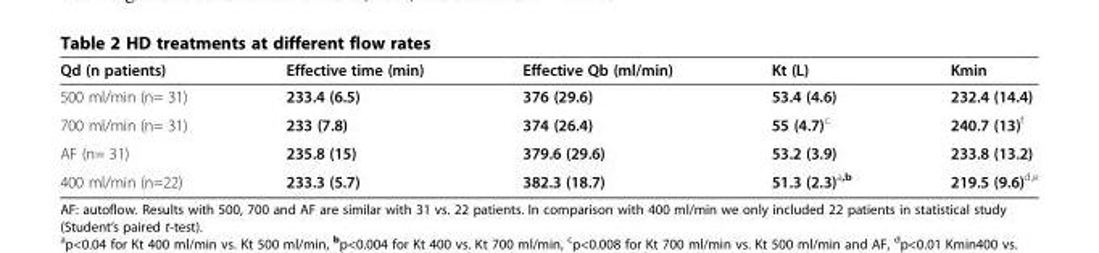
<table><thead><tr><td>Qd (n patients)</td><td>Effective time (min)</td><td>Effective Qb (ml/min)</td><td>Kt (L)</td><td>Kmin</td></tr></thead><tbody><tr><td>500 ml/min (n= 31)</td><td>233.4 (6.5)</td><td>376 (29.6)</td><td>53.4 (4.6)</td><td>232.4 (14.4)</td></tr><tr><td>700 ml/min (n= 31)</td><td>233 (7.8)</td><td>374 (26.4)</td><td>55 (4.7)<sup>c</sup></td><td>240.7 (13)<sup>f</sup></td></tr><tr><td>AF (n= 31)</td><td>235.8 (15)</td><td>379.6 (29.6)</td><td>53.2 (3.9)</td><td>233.8 (13.2)</td></tr><tr><td>400 ml/min (n=22)</td><td>233.3 (5.7)</td><td>382.3 (18.7)</td><td>51.3 (2.3)<sup>a,b</sup></td><td>219.5 (9.6)<sup>d,e</sup></td></tr></tbody></table>